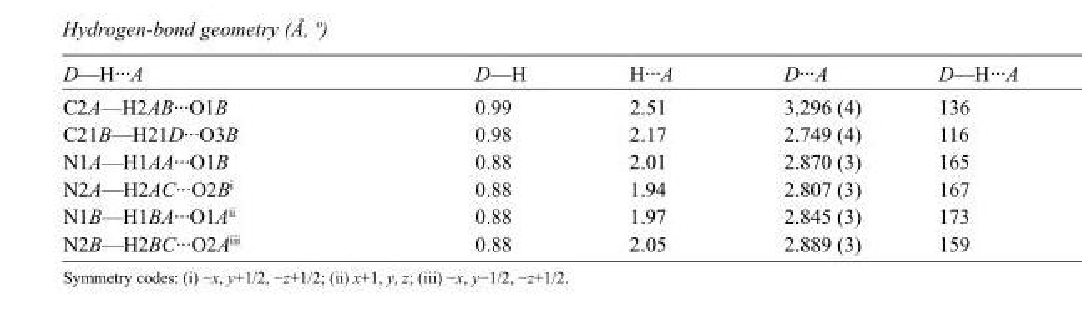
<table><tbody><tr><td>D—H···A</td><td>D—H</td><td>H···A</td><td>D···A</td><td>D—H···A</td></tr><tr><td>C2A—H2AB···O1B</td><td>0.99</td><td>2.51</td><td>3.296 (4)</td><td>136</td></tr><tr><td>C21B—H21D···O3B</td><td>0.98</td><td>2.17</td><td>2.749 (4)</td><td>116</td></tr><tr><td>N1A—H1AA···O1B</td><td>0.88</td><td>2.01</td><td>2.870 (3)</td><td>165</td></tr><tr><td>N2A—H2AC···O2B<sup>i</sup></td><td>0.88</td><td>1.94</td><td>2.807 (3)</td><td>167</td></tr><tr><td>N1B—H1BA···O1A<sup>ii</sup></td><td>0.88</td><td>1.97</td><td>2.845 (3)</td><td>173</td></tr><tr><td>N2B—H2BC···O2A<sup>iii</sup></td><td>0.88</td><td>2.05</td><td>2.889 (3)</td><td>159</td></tr></tbody></table>